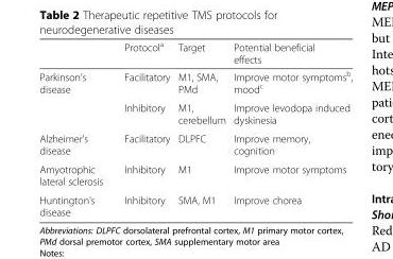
<table><thead><tr><td></td><td>Protocol<sup>a</sup></td><td>Target</td><td>Potential beneficial effects</td></tr></thead><tbody><tr><td rowspan="2">Parkinson’s disease</td><td>Facilitatory</td><td>M1, SMA, PMd</td><td>Improve motor symptoms<sup>b</sup>, mood<sup>c</sup></td></tr><tr><td>Inhibitory</td><td>M1, cerebellum</td><td>Improve levodopa induced dyskinesia</td></tr><tr><td>Alzheimer’s disease</td><td>Facilitatory</td><td>DLPFC</td><td>Improve memory, cognition</td></tr><tr><td>Amyotrophic lateral sclerosis</td><td>Inhibitory</td><td>M1</td><td>Improve motor symptoms</td></tr><tr><td>Huntington’s disease</td><td>Inhibitory</td><td>SMA, M1</td><td>Improve chorea</td></tr></tbody></table>